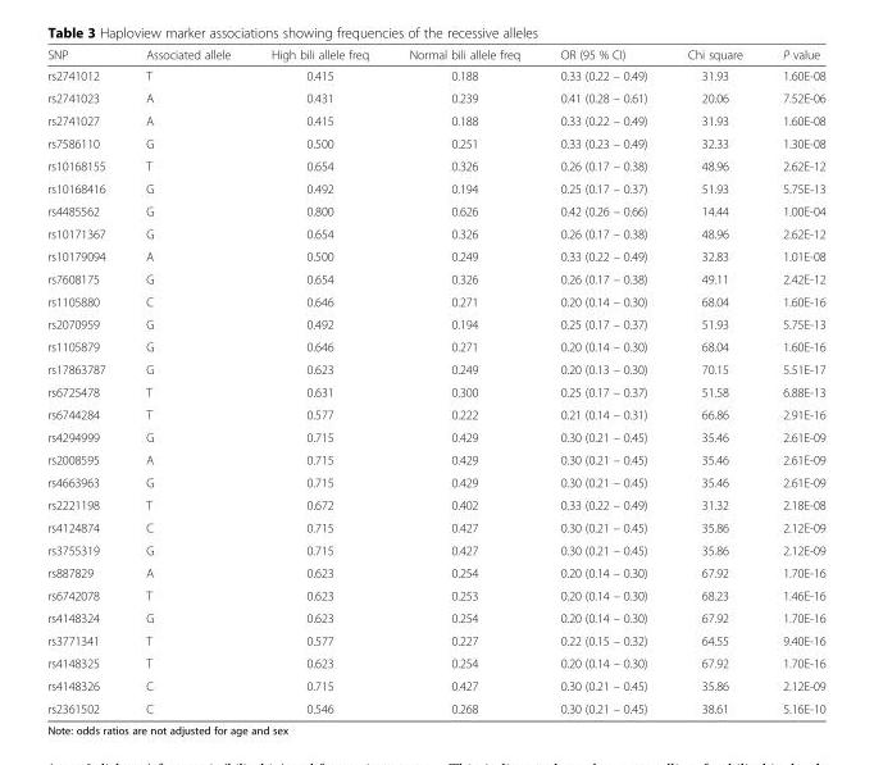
<table><thead><tr><td>SNP</td><td>Associated allele</td><td>High bili allele freq</td><td>Normal bili allele freq</td><td>OR (95 % CI)</td><td>Chi square</td><td>P value</td></tr></thead><tbody><tr><td>rs2741012</td><td>T</td><td>0.415</td><td>0.188</td><td>0.33 (0.22 – 0.49)</td><td>31.93</td><td>1.60E-08</td></tr><tr><td>rs2741023</td><td>A</td><td>0.431</td><td>0.239</td><td>0.41 (0.28 – 0.61)</td><td>20.06</td><td>7.52E-06</td></tr><tr><td>rs2741027</td><td>A</td><td>0.415</td><td>0.188</td><td>0.33 (0.22 – 0.49)</td><td>31.93</td><td>1.60E-08</td></tr><tr><td>rs7586110</td><td>G</td><td>0.500</td><td>0.251</td><td>0.33 (0.23 – 0.49)</td><td>32.33</td><td>1.30E-08</td></tr><tr><td>rs10168155</td><td>T</td><td>0.654</td><td>0.326</td><td>0.26 (0.17 – 0.38)</td><td>48.96</td><td>2.62E-12</td></tr><tr><td>rs10168416</td><td>G</td><td>0.492</td><td>0.194</td><td>0.25 (0.17 – 0.37)</td><td>51.93</td><td>5.75E-13</td></tr><tr><td>rs4485562</td><td>G</td><td>0.800</td><td>0.626</td><td>0.42 (0.26 – 0.66)</td><td>14.44</td><td>1.00E-04</td></tr><tr><td>rs10171367</td><td>G</td><td>0.654</td><td>0.326</td><td>0.26 (0.17 – 0.38)</td><td>48.96</td><td>2.62E-12</td></tr><tr><td>rs10179094</td><td>A</td><td>0.500</td><td>0.249</td><td>0.33 (0.22 – 0.49)</td><td>32.83</td><td>1.01E-08</td></tr><tr><td>rs7608175</td><td>G</td><td>0.654</td><td>0.326</td><td>0.26 (0.17 – 0.38)</td><td>49.11</td><td>2.42E-12</td></tr><tr><td>rs1105880</td><td>C</td><td>0.646</td><td>0.271</td><td>0.20 (0.14 – 0.30)</td><td>68.04</td><td>1.60E-16</td></tr><tr><td>rs2070959</td><td>G</td><td>0.492</td><td>0.194</td><td>0.25 (0.17 – 0.37)</td><td>51.93</td><td>5.75E-13</td></tr><tr><td>rs1105879</td><td>G</td><td>0.646</td><td>0.271</td><td>0.20 (0.14 – 0.30)</td><td>68.04</td><td>1.60E-16</td></tr><tr><td>rs17863787</td><td>G</td><td>0.623</td><td>0.249</td><td>0.20 (0.13 – 0.30)</td><td>70.15</td><td>5.51E-17</td></tr><tr><td>rs6725478</td><td>T</td><td>0.631</td><td>0.300</td><td>0.25 (0.17 – 0.37)</td><td>51.58</td><td>6.88E-13</td></tr><tr><td>rs6744284</td><td>T</td><td>0.577</td><td>0.222</td><td>0.21 (0.14 – 0.31)</td><td>66.86</td><td>2.91E-16</td></tr><tr><td>rs4294999</td><td>G</td><td>0.715</td><td>0.429</td><td>0.30 (0.21 – 0.45)</td><td>35.46</td><td>2.61E-09</td></tr><tr><td>rs2008595</td><td>A</td><td>0.715</td><td>0.429</td><td>0.30 (0.21 – 0.45)</td><td>35.46</td><td>2.61E-09</td></tr><tr><td>rs4663963</td><td>G</td><td>0.715</td><td>0.429</td><td>0.30 (0.21 – 0.45)</td><td>35.46</td><td>2.61E-09</td></tr><tr><td>rs2221198</td><td>T</td><td>0.672</td><td>0.402</td><td>0.33 (0.22 – 0.49)</td><td>31.32</td><td>2.18E-08</td></tr><tr><td>rs4124874</td><td>C</td><td>0.715</td><td>0.427</td><td>0.30 (0.21 – 0.45)</td><td>35.86</td><td>2.12E-09</td></tr><tr><td>rs3755319</td><td>G</td><td>0.715</td><td>0.427</td><td>0.30 (0.21 – 0.45)</td><td>35.86</td><td>2.12E-09</td></tr><tr><td>rs887829</td><td>A</td><td>0.623</td><td>0.254</td><td>0.20 (0.14 – 0.30)</td><td>67.92</td><td>1.70E-16</td></tr><tr><td>rs6742078</td><td>T</td><td>0.623</td><td>0.253</td><td>0.20 (0.14 – 0.30)</td><td>68.23</td><td>1.46E-16</td></tr><tr><td>rs4148324</td><td>G</td><td>0.623</td><td>0.254</td><td>0.20 (0.14 – 0.30)</td><td>67.92</td><td>1.70E-16</td></tr><tr><td>rs3771341</td><td>T</td><td>0.577</td><td>0.227</td><td>0.22 (0.15 – 0.32)</td><td>64.55</td><td>9.40E-16</td></tr><tr><td>rs4148325</td><td>T</td><td>0.623</td><td>0.254</td><td>0.20 (0.14 – 0.30)</td><td>67.92</td><td>1.70E-16</td></tr><tr><td>rs4148326</td><td>C</td><td>0.715</td><td>0.427</td><td>0.30 (0.21 – 0.45)</td><td>35.86</td><td>2.12E-09</td></tr><tr><td>rs2361502</td><td>C</td><td>0.546</td><td>0.268</td><td>0.30 (0.21 – 0.45)</td><td>38.61</td><td>5.16E-10</td></tr></tbody></table>